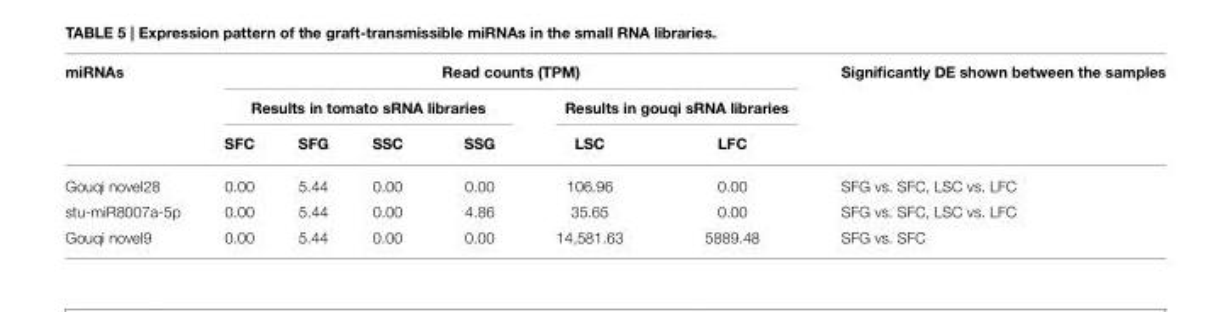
<table><thead><tr><td rowspan="3">miRNAs</td><td colspan="6">Read counts (TPM)</td><td rowspan="3">Significantly DE shown between the samples</td></tr><tr><td colspan="4">Results in tomato sRNA libraries</td><td colspan="2">Results in gouqi sRNA libraries</td></tr><tr><td>SFC</td><td>SFG</td><td>SSC</td><td>SSG</td><td>LSC</td><td>LFC</td></tr></thead><tbody><tr><td>Gouqi novel28</td><td>0.00</td><td>5.44</td><td>0.00</td><td>0.00</td><td>106.96</td><td>0.00</td><td>SFG vs. SFC, LSC vs. LFC</td></tr><tr><td>stu-miR8007a-5p</td><td>0.00</td><td>5.44</td><td>0.00</td><td>4.86</td><td>35.65</td><td>0.00</td><td>SFG vs. SFC, LSC vs. LFC</td></tr><tr><td>Gouqi novel9</td><td>0.00</td><td>5.44</td><td>0.00</td><td>0.00</td><td>14,581.63</td><td>5889.48</td><td>SFG vs. SFC</td></tr></tbody></table>